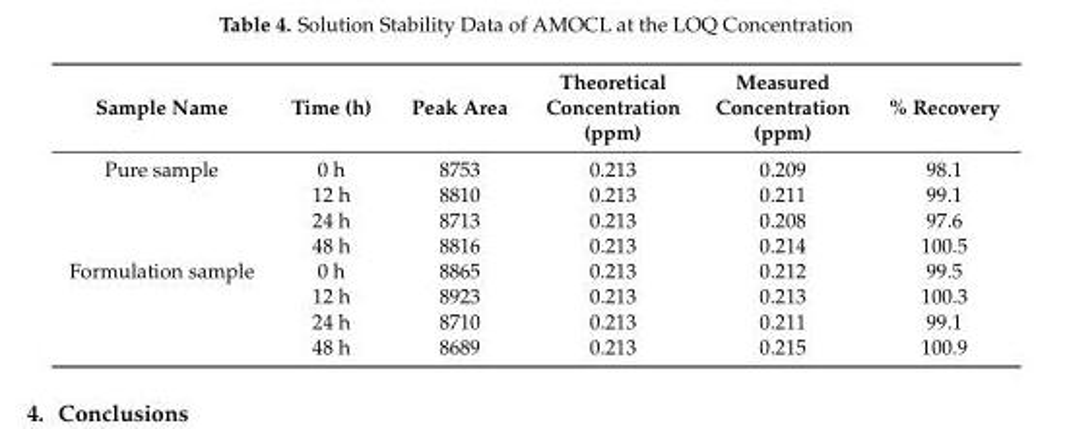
<table><thead><tr><td>Sample Name</td><td>Time (h)</td><td>Peak Area</td><td>Theoretical Concentration (ppm)</td><td>Measured Concentration (ppm)</td><td>% Recovery</td></tr></thead><tbody><tr><td rowspan="4">Pure sample</td><td>0 h</td><td>8753</td><td>0.213</td><td>0.209</td><td>98.1</td></tr><tr><td>12 h</td><td>8810</td><td>0.213</td><td>0.211</td><td>99.1</td></tr><tr><td>24 h</td><td>8713</td><td>0.213</td><td>0.208</td><td>97.6</td></tr><tr><td>48 h</td><td>8816</td><td>0.213</td><td>0.214</td><td>100.5</td></tr><tr><td rowspan="4">Formulation sample</td><td>0 h</td><td>8865</td><td>0.213</td><td>0.212</td><td>99.5</td></tr><tr><td>12 h</td><td>8923</td><td>0.213</td><td>0.213</td><td>100.3</td></tr><tr><td>24 h</td><td>8710</td><td>0.213</td><td>0.211</td><td>99.1</td></tr><tr><td>48 h</td><td>8689</td><td>0.213</td><td>0.215</td><td>100.9</td></tr></tbody></table>